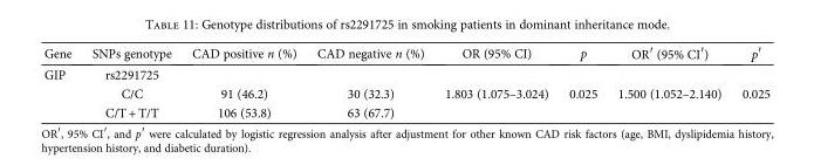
<table><thead><tr><td>Gene</td><td>SNPs genotype</td><td>CAD positive n (%)</td><td>CAD negative n (%)</td><td>OR (95% CI)</td><td>p</td><td>OR′ (95% CI′)</td><td>p′</td></tr></thead><tbody><tr><td rowspan="3">GIP</td><td>rs2291725</td><td></td><td></td><td></td><td></td><td></td><td></td></tr><tr><td>C/C</td><td>91 (46.2)</td><td>30 (32.3)</td><td>1.803 (1.075–3.024)</td><td>0.025</td><td>1.500 (1.052–2.140)</td><td>0.025</td></tr><tr><td>C/T + T/T</td><td>106 (53.8)</td><td>63 (67.7)</td><td></td><td></td><td></td><td></td></tr></tbody></table>